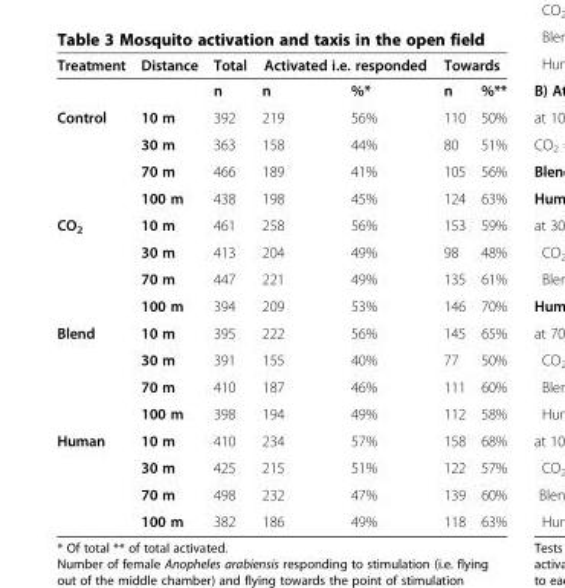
<table><thead><tr><td rowspan="2">Treatment</td><td rowspan="2">Distance</td><td rowspan="2">Total n</td><td colspan="2">Activated i.e. responded</td><td colspan="2">Towards</td></tr><tr><td>n</td><td>%*</td><td>n</td><td>%**</td></tr></thead><tbody><tr><td rowspan="4">Control</td><td>10 m</td><td>392</td><td>219</td><td>56%</td><td>110</td><td>50%</td></tr><tr><td>30 m</td><td>363</td><td>158</td><td>44%</td><td>80</td><td>51%</td></tr><tr><td>70 m</td><td>466</td><td>189</td><td>41%</td><td>105</td><td>56%</td></tr><tr><td>100 m</td><td>438</td><td>198</td><td>45%</td><td>124</td><td>63%</td></tr><tr><td rowspan="4">CO<sub>2</sub></td><td>10 m</td><td>461</td><td>258</td><td>56%</td><td>153</td><td>59%</td></tr><tr><td>30 m</td><td>413</td><td>204</td><td>49%</td><td>98</td><td>48%</td></tr><tr><td>70 m</td><td>447</td><td>221</td><td>49%</td><td>135</td><td>61%</td></tr><tr><td>100 m</td><td>394</td><td>209</td><td>53%</td><td>146</td><td>70%</td></tr><tr><td rowspan="4">Blend</td><td>10 m</td><td>395</td><td>222</td><td>56%</td><td>145</td><td>65%</td></tr><tr><td>30 m</td><td>391</td><td>155</td><td>40%</td><td>77</td><td>50%</td></tr><tr><td>70 m</td><td>410</td><td>187</td><td>46%</td><td>111</td><td>60%</td></tr><tr><td>100 m</td><td>398</td><td>194</td><td>49%</td><td>112</td><td>58%</td></tr><tr><td rowspan="4">Human</td><td>10 m</td><td>410</td><td>234</td><td>57%</td><td>158</td><td>68%</td></tr><tr><td>30 m</td><td>425</td><td>215</td><td>51%</td><td>122</td><td>57%</td></tr><tr><td>70 m</td><td>498</td><td>232</td><td>47%</td><td>139</td><td>60%</td></tr><tr><td>100 m</td><td>382</td><td>186</td><td>49%</td><td>118</td><td>63%</td></tr></tbody></table>